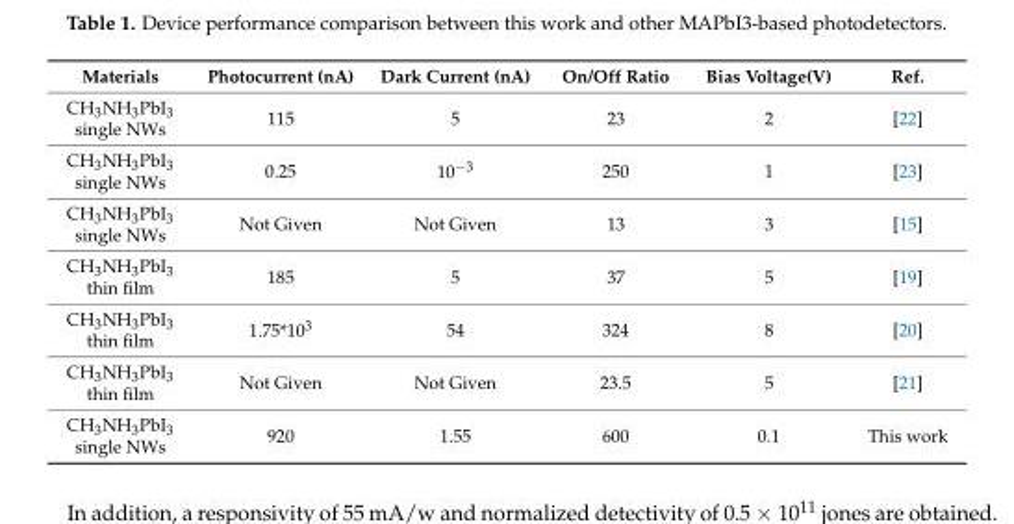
<table><thead><tr><td>Materials</td><td>Photocurrent (nA)</td><td>Dark Current (nA)</td><td>On/Off Ratio</td><td>Bias Voltage(V)</td><td>Ref.</td></tr></thead><tbody><tr><td>CH<sub>3</sub>NH<sub>3</sub>PbI<sub>3</sub> single NWs</td><td>115</td><td>5</td><td>23</td><td>2</td><td>[22]</td></tr><tr><td>CH<sub>3</sub>NH<sub>3</sub>PbI<sub>3</sub> single NWs</td><td>0.25</td><td>10<sup>−3</sup></td><td>250</td><td>1</td><td>[23]</td></tr><tr><td>CH<sub>3</sub>NH<sub>3</sub>PbI<sub>3</sub> single NWs</td><td>Not Given</td><td>Not Given</td><td>13</td><td>3</td><td>[15]</td></tr><tr><td>CH<sub>3</sub>NH<sub>3</sub>PbI<sub>3</sub> thin film</td><td>185</td><td>5</td><td>37</td><td>5</td><td>[19]</td></tr><tr><td>CH<sub>3</sub>NH<sub>3</sub>PbI<sub>3</sub> thin film</td><td>1.75*10<sup>3</sup></td><td>54</td><td>324</td><td>8</td><td>[20]</td></tr><tr><td>CH<sub>3</sub>NH<sub>3</sub>PbI<sub>3</sub> thin film</td><td>Not Given</td><td>Not Given</td><td>23.5</td><td>5</td><td>[21]</td></tr><tr><td>CH<sub>3</sub>NH<sub>3</sub>PbI<sub>3</sub> single NWs</td><td>920</td><td>1.55</td><td>600</td><td>0.1</td><td>This work</td></tr></tbody></table>